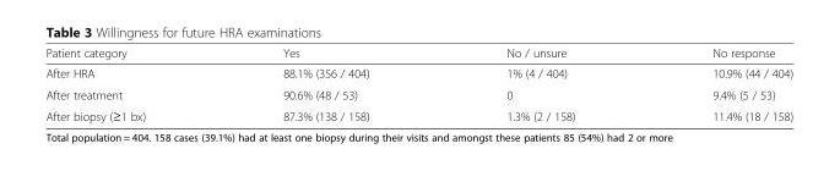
<table><thead><tr><td>Patient category</td><td>Yes</td><td>No / unsure</td><td>No response</td></tr></thead><tbody><tr><td>After HRA</td><td>88.1% (356 / 404)</td><td>1% (4 / 404)</td><td>10.9% (44 / 404)</td></tr><tr><td>After treatment</td><td>90.6% (48 / 53)</td><td>0</td><td>9.4% (5 / 53)</td></tr><tr><td>After biopsy (≥1 bx)</td><td>87.3% (138 / 158)</td><td>1.3% (2 / 158)</td><td>11.4% (18 / 158)</td></tr></tbody></table>